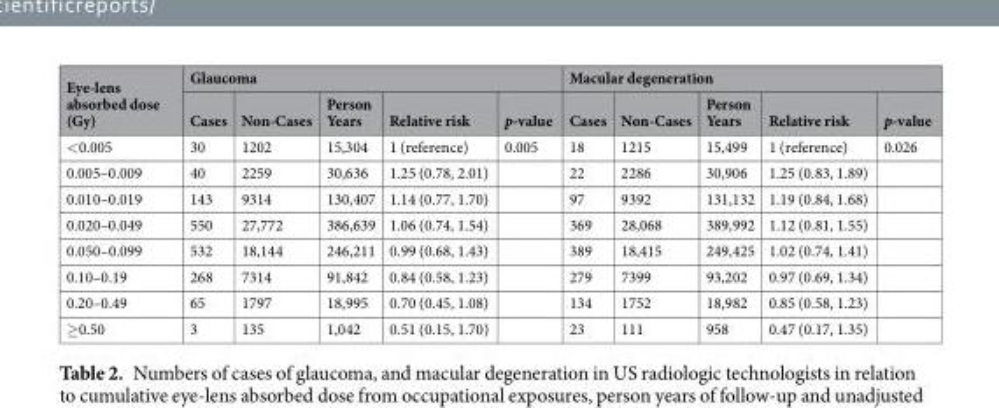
<table><thead><tr><td rowspan="2">Eye-lens absorbed dose (Gy)</td><td colspan="5">Glaucoma</td><td colspan="5">Macular degeneration</td></tr><tr><td>Cases</td><td>Non-Cases</td><td>Person Years</td><td>Relative risk</td><td>p-value</td><td>Cases</td><td>Non-Cases</td><td>Person Years</td><td>Relative risk</td><td>p-value</td></tr></thead><tbody><tr><td>&lt;0.005</td><td>30</td><td>1202</td><td>15,304</td><td>1 (reference)</td><td>0.005</td><td>18</td><td>1215</td><td>15,499</td><td>1 (reference)</td><td>0.026</td></tr><tr><td>0.005–0.009</td><td>40</td><td>2259</td><td>30,636</td><td>1.25 (0.78, 2.01)</td><td></td><td>22</td><td>2286</td><td>30,906</td><td>1.25 (0.83, 1.89)</td><td></td></tr><tr><td>0.010–0.019</td><td>143</td><td>9314</td><td>130,407</td><td>1.14 (0.77, 1.70)</td><td></td><td>97</td><td>9392</td><td>131,132</td><td>1.19 (0.84, 1.68)</td><td></td></tr><tr><td>0.020–0.049</td><td>550</td><td>27,772</td><td>386,639</td><td>1.06 (0.74, 1.54)</td><td></td><td>369</td><td>28,068</td><td>389,992</td><td>1.12 (0.81, 1.55)</td><td></td></tr><tr><td>0.050–0.099</td><td>532</td><td>18,144</td><td>246,211</td><td>0.99 (0.68, 1.43)</td><td></td><td>389</td><td>18,415</td><td>249,425</td><td>1.02 (0.74, 1.41)</td><td></td></tr><tr><td>0.10–0.19</td><td>268</td><td>7314</td><td>91,842</td><td>0.84 (0.58, 1.23)</td><td></td><td>279</td><td>7399</td><td>93,202</td><td>0.97 (0.69, 1.34)</td><td></td></tr><tr><td>0.20–0.49</td><td>65</td><td>1797</td><td>18,995</td><td>0.70 (0.45, 1.08)</td><td></td><td>134</td><td>1752</td><td>18,982</td><td>0.85 (0.58, 1.23)</td><td></td></tr><tr><td>≥0.50</td><td>3</td><td>135</td><td>1,042</td><td>0.51 (0.15, 1.70)</td><td></td><td>23</td><td>111</td><td>958</td><td>0.47 (0.17, 1.35)</td><td></td></tr></tbody></table>